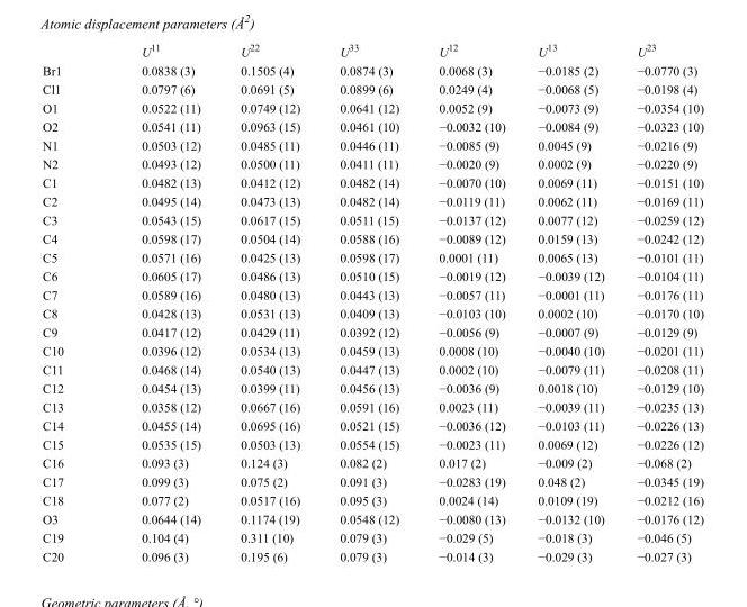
<table><thead><tr><td></td><td>U<sup>11</sup></td><td>U<sup>22</sup></td><td>U<sup>33</sup></td><td>U<sup>12</sup></td><td>U<sup>13</sup></td><td>U<sup>23</sup></td></tr></thead><tbody><tr><td>Br1</td><td>0.0838 (3)</td><td>0.1505 (4)</td><td>0.0874 (3)</td><td>0.0068 (3)</td><td>−0.0185 (2)</td><td>−0.0770 (3)</td></tr><tr><td>Cl1</td><td>0.0797 (6)</td><td>0.0691 (5)</td><td>0.0899 (6)</td><td>0.0249 (4)</td><td>−0.0068 (5)</td><td>−0.0198 (4)</td></tr><tr><td>O1</td><td>0.0522 (11)</td><td>0.0749 (12)</td><td>0.0641 (12)</td><td>0.0052 (9)</td><td>−0.0073 (9)</td><td>−0.0354 (10)</td></tr><tr><td>O2</td><td>0.0541 (11)</td><td>0.0963 (15)</td><td>0.0461 (10)</td><td>−0.0032 (10)</td><td>−0.0084 (9)</td><td>−0.0323 (10)</td></tr><tr><td>N1</td><td>0.0503 (12)</td><td>0.0485 (11)</td><td>0.0446 (11)</td><td>−0.0085 (9)</td><td>0.0045 (9)</td><td>−0.0216 (9)</td></tr><tr><td>N2</td><td>0.0493 (12)</td><td>0.0500 (11)</td><td>0.0411 (11)</td><td>−0.0020 (9)</td><td>0.0002 (9)</td><td>−0.0220 (9)</td></tr><tr><td>C1</td><td>0.0482 (13)</td><td>0.0412 (12)</td><td>0.0482 (14)</td><td>−0.0070 (10)</td><td>0.0069 (11)</td><td>−0.0151 (10)</td></tr><tr><td>C2</td><td>0.0495 (14)</td><td>0.0473 (13)</td><td>0.0482 (14)</td><td>−0.0119 (11)</td><td>0.0062 (11)</td><td>−0.0169 (11)</td></tr><tr><td>C3</td><td>0.0543 (15)</td><td>0.0617 (15)</td><td>0.0511 (15)</td><td>−0.0137 (12)</td><td>0.0077 (12)</td><td>−0.0259 (12)</td></tr><tr><td>C4</td><td>0.0598 (17)</td><td>0.0504 (14)</td><td>0.0588 (16)</td><td>−0.0089 (12)</td><td>0.0159 (13)</td><td>−0.0242 (12)</td></tr><tr><td>C5</td><td>0.0571 (16)</td><td>0.0425 (13)</td><td>0.0598 (17)</td><td>0.0001 (11)</td><td>0.0065 (13)</td><td>−0.0101 (11)</td></tr><tr><td>C6</td><td>0.0605 (17)</td><td>0.0486 (13)</td><td>0.0510 (15)</td><td>−0.0019 (12)</td><td>−0.0039 (12)</td><td>−0.0104 (11)</td></tr><tr><td>C7</td><td>0.0589 (16)</td><td>0.0480 (13)</td><td>0.0443 (13)</td><td>−0.0057 (11)</td><td>−0.0001 (11)</td><td>−0.0176 (11)</td></tr><tr><td>C8</td><td>0.0428 (13)</td><td>0.0531 (13)</td><td>0.0409 (13)</td><td>−0.0103 (10)</td><td>0.0002 (10)</td><td>−0.0170 (10)</td></tr><tr><td>C9</td><td>0.0417 (12)</td><td>0.0429 (11)</td><td>0.0392 (12)</td><td>−0.0056 (9)</td><td>−0.0007 (9)</td><td>−0.0129 (9)</td></tr><tr><td>C10</td><td>0.0396 (12)</td><td>0.0534 (13)</td><td>0.0459 (13)</td><td>0.0008 (10)</td><td>−0.0040 (10)</td><td>−0.0201 (11)</td></tr><tr><td>C11</td><td>0.0468 (14)</td><td>0.0540 (13)</td><td>0.0447 (13)</td><td>0.0002 (10)</td><td>−0.0079 (11)</td><td>−0.0208 (11)</td></tr><tr><td>C12</td><td>0.0454 (13)</td><td>0.0399 (11)</td><td>0.0456 (13)</td><td>−0.0036 (9)</td><td>0.0018 (10)</td><td>−0.0129 (10)</td></tr><tr><td>C13</td><td>0.0358 (12)</td><td>0.0667 (16)</td><td>0.0591 (16)</td><td>0.0023 (11)</td><td>−0.0039 (11)</td><td>−0.0235 (13)</td></tr><tr><td>C14</td><td>0.0455 (14)</td><td>0.0695 (16)</td><td>0.0521 (15)</td><td>−0.0036 (12)</td><td>−0.0103 (11)</td><td>−0.0226 (13)</td></tr><tr><td>C15</td><td>0.0535 (15)</td><td>0.0503 (13)</td><td>0.0554 (15)</td><td>−0.0023 (11)</td><td>0.0069 (12)</td><td>−0.0226 (12)</td></tr><tr><td>C16</td><td>0.093 (3)</td><td>0.124 (3)</td><td>0.082 (2)</td><td>0.017 (2)</td><td>−0.009 (2)</td><td>−0.068 (2)</td></tr><tr><td>C17</td><td>0.099 (3)</td><td>0.075 (2)</td><td>0.091 (3)</td><td>−0.0283 (19)</td><td>0.048 (2)</td><td>−0.0345 (19)</td></tr><tr><td>C18</td><td>0.077 (2)</td><td>0.0517 (16)</td><td>0.095 (3)</td><td>0.0024 (14)</td><td>0.0109 (19)</td><td>−0.0212 (16)</td></tr><tr><td>O3</td><td>0.0644 (14)</td><td>0.1174 (19)</td><td>0.0548 (12)</td><td>−0.0080 (13)</td><td>−0.0132 (10)</td><td>−0.0176 (12)</td></tr><tr><td>C19</td><td>0.104 (4)</td><td>0.311 (10)</td><td>0.079 (3)</td><td>−0.029 (5)</td><td>−0.018 (3)</td><td>−0.046 (5)</td></tr><tr><td>C20</td><td>0.096 (3)</td><td>0.195 (6)</td><td>0.079 (3)</td><td>−0.014 (3)</td><td>−0.029 (3)</td><td>−0.027 (3)</td></tr></tbody></table>